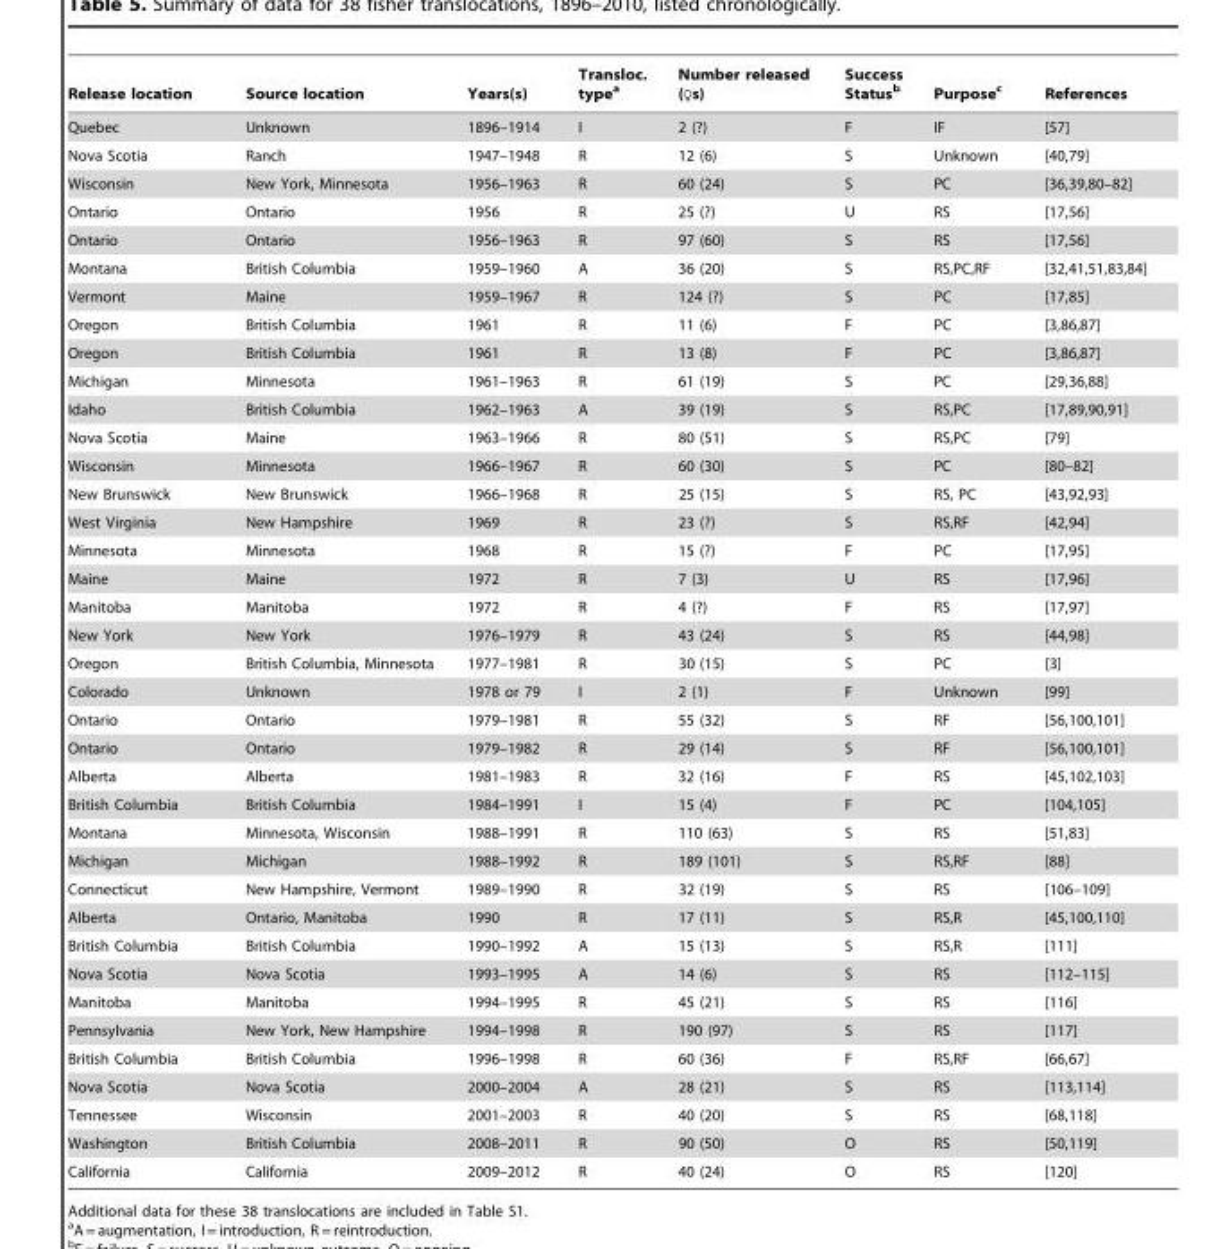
<table><thead><tr><td>Release location</td><td>Source location</td><td>Years(s)</td><td>Transloc. type<sup>a</sup></td><td>Number released (♀s)</td><td>Success Status<sup>b</sup></td><td>Purpose<sup>c</sup></td><td>References</td></tr></thead><tbody><tr><td>Quebec</td><td>Unknown</td><td>1896–1914</td><td>I</td><td>2 (?)</td><td>F</td><td>IF</td><td>[57]</td></tr><tr><td>Nova Scotia</td><td>Ranch</td><td>1947–1948</td><td>R</td><td>12 (6)</td><td>S</td><td>Unknown</td><td>[40,79]</td></tr><tr><td>Wisconsin</td><td>New York, Minnesota</td><td>1956–1963</td><td>R</td><td>60 (24)</td><td>S</td><td>PC</td><td>[36,39,80–82]</td></tr><tr><td>Ontario</td><td>Ontario</td><td>1956</td><td>R</td><td>25 (?)</td><td>U</td><td>RS</td><td>[17,56]</td></tr><tr><td>Ontario</td><td>Ontario</td><td>1956–1963</td><td>R</td><td>97 (60)</td><td>S</td><td>RS</td><td>[17,56]</td></tr><tr><td>Montana</td><td>British Columbia</td><td>1959–1960</td><td>A</td><td>36 (20)</td><td>S</td><td>RS,PC,RF</td><td>[32,41,51,83,84]</td></tr><tr><td>Vermont</td><td>Maine</td><td>1959–1967</td><td>R</td><td>124 (?)</td><td>S</td><td>PC</td><td>[17,85]</td></tr><tr><td>Oregon</td><td>British Columbia</td><td>1961</td><td>R</td><td>11 (6)</td><td>F</td><td>PC</td><td>[3,86,87]</td></tr><tr><td>Oregon</td><td>British Columbia</td><td>1961</td><td>R</td><td>13 (8)</td><td>F</td><td>PC</td><td>[3,86,87]</td></tr><tr><td>Michigan</td><td>Minnesota</td><td>1961–1963</td><td>R</td><td>61 (19)</td><td>S</td><td>PC</td><td>[29,36,88]</td></tr><tr><td>Idaho</td><td>British Columbia</td><td>1962–1963</td><td>A</td><td>39 (19)</td><td>S</td><td>RS,PC</td><td>[17,89,90,91]</td></tr><tr><td>Nova Scotia</td><td>Maine</td><td>1963–1966</td><td>R</td><td>80 (51)</td><td>S</td><td>RS,PC</td><td>[79]</td></tr><tr><td>Wisconsin</td><td>Minnesota</td><td>1966–1967</td><td>R</td><td>60 (30)</td><td>S</td><td>PC</td><td>[80–82]</td></tr><tr><td>New Brunswick</td><td>New Brunswick</td><td>1966–1968</td><td>R</td><td>25 (15)</td><td>S</td><td>RS, PC</td><td>[43,92,93]</td></tr><tr><td>West Virginia</td><td>New Hampshire</td><td>1969</td><td>R</td><td>23 (?)</td><td>S</td><td>RS,RF</td><td>[42,94]</td></tr><tr><td>Minnesota</td><td>Minnesota</td><td>1968</td><td>R</td><td>15 (?)</td><td>F</td><td>PC</td><td>[17,95]</td></tr><tr><td>Maine</td><td>Maine</td><td>1972</td><td>R</td><td>7 (3)</td><td>U</td><td>RS</td><td>[17,96]</td></tr><tr><td>Manitoba</td><td>Manitoba</td><td>1972</td><td>R</td><td>4 (?)</td><td>F</td><td>RS</td><td>[17,97]</td></tr><tr><td>New York</td><td>New York</td><td>1976–1979</td><td>R</td><td>43 (24)</td><td>S</td><td>RS</td><td>[44,98]</td></tr><tr><td>Oregon</td><td>British Columbia, Minnesota</td><td>1977–1981</td><td>R</td><td>30 (15)</td><td>S</td><td>PC</td><td>[3]</td></tr><tr><td>Colorado</td><td>Unknown</td><td>1978 or 79</td><td>I</td><td>2 (1)</td><td>F</td><td>Unknown</td><td>[99]</td></tr><tr><td>Ontario</td><td>Ontario</td><td>1979–1981</td><td>R</td><td>55 (32)</td><td>S</td><td>RF</td><td>[56,100,101]</td></tr><tr><td>Ontario</td><td>Ontario</td><td>1979–1982</td><td>R</td><td>29 (14)</td><td>S</td><td>RF</td><td>[56,100,101]</td></tr><tr><td>Alberta</td><td>Alberta</td><td>1981–1983</td><td>R</td><td>32 (16)</td><td>F</td><td>RS</td><td>[45,102,103]</td></tr><tr><td>British Columbia</td><td>British Columbia</td><td>1984–1991</td><td>I</td><td>15 (4)</td><td>F</td><td>PC</td><td>[104,105]</td></tr><tr><td>Montana</td><td>Minnesota, Wisconsin</td><td>1988–1991</td><td>R</td><td>110 (63)</td><td>S</td><td>RS</td><td>[51,83]</td></tr><tr><td>Michigan</td><td>Michigan</td><td>1988–1992</td><td>R</td><td>189 (101)</td><td>S</td><td>RS,RF</td><td>[88]</td></tr><tr><td>Connecticut</td><td>New Hampshire, Vermont</td><td>1989–1990</td><td>R</td><td>32 (19)</td><td>S</td><td>RS</td><td>[106–109]</td></tr><tr><td>Alberta</td><td>Ontario, Manitoba</td><td>1990</td><td>R</td><td>17 (11)</td><td>S</td><td>RS,R</td><td>[45,100,110]</td></tr><tr><td>British Columbia</td><td>British Columbia</td><td>1990–1992</td><td>A</td><td>15 (13)</td><td>S</td><td>RS,R</td><td>[111]</td></tr><tr><td>Nova Scotia</td><td>Nova Scotia</td><td>1993–1995</td><td>A</td><td>14 (6)</td><td>S</td><td>RS</td><td>[112–115]</td></tr><tr><td>Manitoba</td><td>Manitoba</td><td>1994–1995</td><td>R</td><td>45 (21)</td><td>S</td><td>RS</td><td>[116]</td></tr><tr><td>Pennsylvania</td><td>New York, New Hampshire</td><td>1994–1998</td><td>R</td><td>190 (97)</td><td>S</td><td>RS</td><td>[117]</td></tr><tr><td>British Columbia</td><td>British Columbia</td><td>1996–1998</td><td>R</td><td>60 (36)</td><td>F</td><td>RS,RF</td><td>[66,67]</td></tr><tr><td>Nova Scotia</td><td>Nova Scotia</td><td>2000–2004</td><td>A</td><td>28 (21)</td><td>S</td><td>RS</td><td>[113,114]</td></tr><tr><td>Tennessee</td><td>Wisconsin</td><td>2001–2003</td><td>R</td><td>40 (20)</td><td>S</td><td>RS</td><td>[68,118]</td></tr><tr><td>Washington</td><td>British Columbia</td><td>2008–2011</td><td>R</td><td>90 (50)</td><td>O</td><td>RS</td><td>[50,119]</td></tr><tr><td>California</td><td>California</td><td>2009–2012</td><td>R</td><td>40 (24)</td><td>O</td><td>RS</td><td>[120]</td></tr></tbody></table>